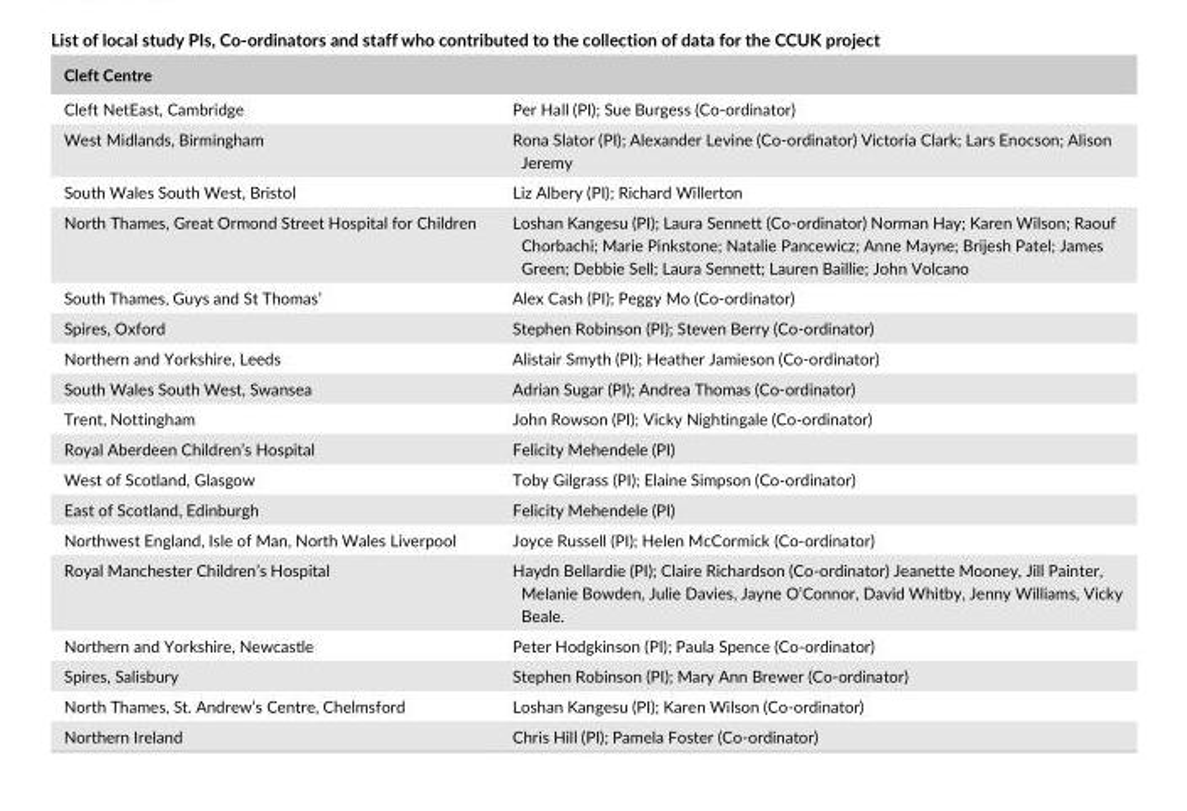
<table><thead><tr><td>Cleft Centre</td><td></td></tr></thead><tbody><tr><td>Cleft NetEast, Cambridge</td><td>Per Hall (PI); Sue Burgess (Co- ordinator)</td></tr><tr><td>West Midlands, Birmingham</td><td>Rona Slator (PI); Alexander Levine (Co- ordinator) Victoria Clark; Lars Enocson; Alison Jeremy</td></tr><tr><td>South Wales South West, Bristol</td><td>Liz Albery (PI); Richard Willerton</td></tr><tr><td>North Thames, Great Ormond Street Hospital for Children</td><td>Loshan Kangesu (PI); Laura Sennett (Co- ordinator) Norman Hay; Karen Wilson; Raouf Chorbachi; Marie Pinkstone; Natalie Pancewicz; Anne Mayne; Brijesh Patel; James Green; Debbie Sell; Laura Sennett; Lauren Baillie; John Volcano</td></tr><tr><td>South Thames, Guys and St Thomas’</td><td>Alex Cash (PI); Peggy Mo (Co- ordinator)</td></tr><tr><td>Spires, Oxford</td><td>Stephen Robinson (PI); Steven Berry (Co- ordinator)</td></tr><tr><td>Northern and Yorkshire, Leeds</td><td>Alistair Smyth (PI); Heather Jamieson (Co- ordinator)</td></tr><tr><td>South Wales South West, Swansea</td><td>Adrian Sugar (PI); Andrea Thomas (Co- ordinator)</td></tr><tr><td>Trent, Nottingham</td><td>John Rowson (PI); Vicky Nightingale (Co- ordinator)</td></tr><tr><td>Royal Aberdeen Children’s Hospital</td><td>Felicity Mehendele (PI)</td></tr><tr><td>West of Scotland, Glasgow</td><td>Toby Gilgrass (PI); Elaine Simpson (Co- ordinator)</td></tr><tr><td>East of Scotland, Edinburgh</td><td>Felicity Mehendele (PI)</td></tr><tr><td>Northwest England, Isle of Man, North Wales Liverpool</td><td>Joyce Russell (PI); Helen McCormick (Co- ordinator)</td></tr><tr><td>Royal Manchester Children’s Hospital</td><td>Haydn Bellardie (PI); Claire Richardson (Co- ordinator) Jeanette Mooney, Jill Painter, Melanie Bowden, Julie Davies, Jayne O’Connor, David Whitby, Jenny Williams, Vicky Beale.</td></tr><tr><td>Northern and Yorkshire, Newcastle</td><td>Peter Hodgkinson (PI); Paula Spence (Co- ordinator)</td></tr><tr><td>Spires, Salisbury</td><td>Stephen Robinson (PI); Mary Ann Brewer (Co- ordinator)</td></tr><tr><td>North Thames, St. Andrew’s Centre, Chelmsford</td><td>Loshan Kangesu (PI); Karen Wilson (Co- ordinator)</td></tr><tr><td>Northern Ireland</td><td>Chris Hill (PI); Pamela Foster (Co- ordinator)</td></tr></tbody></table>